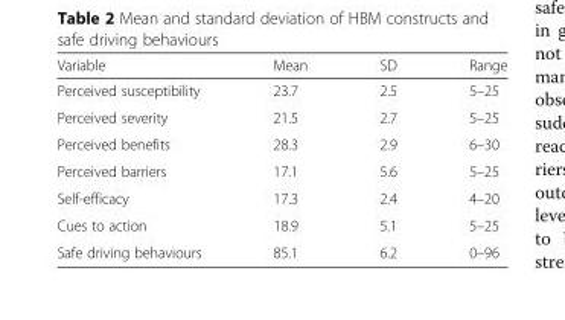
<table><thead><tr><td>Variable</td><td>Mean</td><td>SD</td><td>Range</td></tr></thead><tbody><tr><td>Perceived susceptibility</td><td>23.7</td><td>2.5</td><td>5–25</td></tr><tr><td>Perceived severity</td><td>21.5</td><td>2.7</td><td>5–25</td></tr><tr><td>Perceived benefits</td><td>28.3</td><td>2.9</td><td>6–30</td></tr><tr><td>Perceived barriers</td><td>17.1</td><td>5.6</td><td>5–25</td></tr><tr><td>Self-efficacy</td><td>17.3</td><td>2.4</td><td>4–20</td></tr><tr><td>Cues to action</td><td>18.9</td><td>5.1</td><td>5–25</td></tr><tr><td>Safe driving behaviours</td><td>85.1</td><td>6.2</td><td>0–96</td></tr></tbody></table>